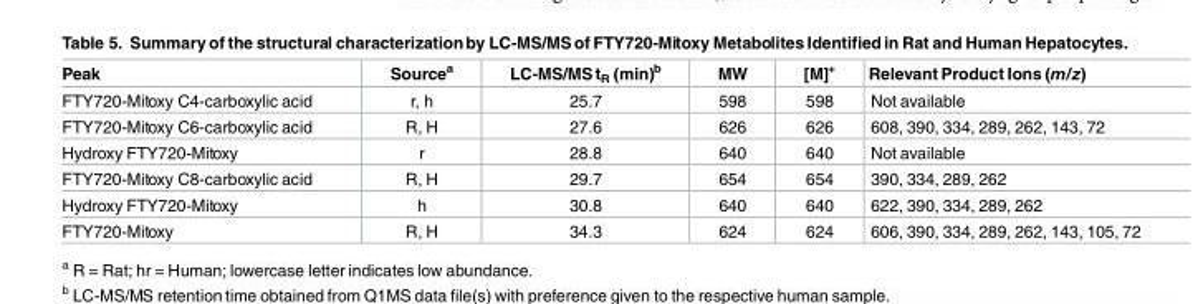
<table><thead><tr><td>Peak</td><td>Source<sup>a</sup></td><td>LC-MS/MS t<sub>R</sub> (min)<sup>b</sup></td><td>MW</td><td>[M]<sup>+</sup></td><td>Relevant Product Ions (m/z)</td></tr></thead><tbody><tr><td>FTY720-Mitoxy C4-carboxylic acid</td><td>r, h</td><td>25.7</td><td>598</td><td>598</td><td>Not available</td></tr><tr><td>FTY720-Mitoxy C6-carboxylic acid</td><td>R, H</td><td>27.6</td><td>626</td><td>626</td><td>608, 390, 334, 289, 262, 143, 72</td></tr><tr><td>Hydroxy FTY720-Mitoxy</td><td>r</td><td>28.8</td><td>640</td><td>640</td><td>Not available</td></tr><tr><td>FTY720-Mitoxy C8-carboxylic acid</td><td>R, H</td><td>29.7</td><td>654</td><td>654</td><td>390, 334, 289, 262</td></tr><tr><td>Hydroxy FTY720-Mitoxy</td><td>h</td><td>30.8</td><td>640</td><td>640</td><td>622, 390, 334, 289, 262</td></tr><tr><td>FTY720-Mitoxy</td><td>R, H</td><td>34.3</td><td>624</td><td>624</td><td>606, 390, 334, 289, 262, 143, 105, 72</td></tr></tbody></table>